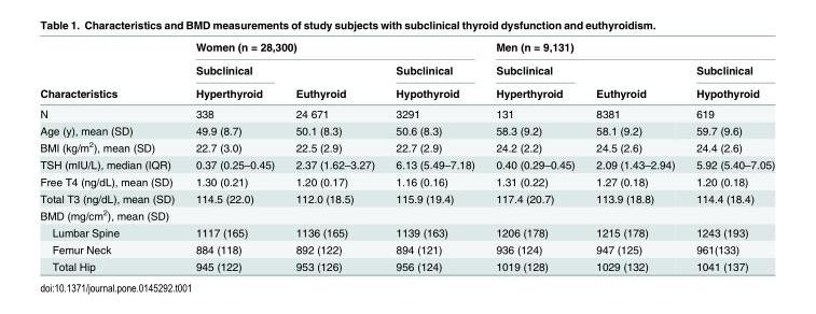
<table><thead><tr><td rowspan="3">Characteristics</td><td colspan="3">Women (n = 28,300)</td><td colspan="3">Men (n = 9,131)</td></tr><tr><td rowspan="2">Subclinical Hyperthyroid</td><td rowspan="2">Euthyroid</td><td rowspan="2">Subclinical Hypothyroid</td><td rowspan="2">Subclinical Hyperthyroid</td><td rowspan="2">Euthyroid</td><td rowspan="2">Subclinical Hypothyroid</td></tr><tr></tr></thead><tbody><tr><td>N</td><td>338</td><td>24 671</td><td>3291</td><td>131</td><td>8381</td><td>619</td></tr><tr><td>Age (y), mean (SD)</td><td>49.9 (8.7)</td><td>50.1 (8.3)</td><td>50.6 (8.3)</td><td>58.3 (9.2)</td><td>58.1 (9.2)</td><td>59.7 (9.6)</td></tr><tr><td>BMI (kg/m<sup>2</sup>), mean (SD)</td><td>22.7 (3.0)</td><td>22.5 (2.9)</td><td>22.7 (2.9)</td><td>24.2 (2.2)</td><td>24.5 (2.6)</td><td>24.4 (2.6)</td></tr><tr><td>TSH (mIU/L), median (IQR)</td><td>0.37 (0.25–0.45)</td><td>2.37 (1.62–3.27)</td><td>6.13 (5.49–7.18)</td><td>0.40 (0.29–0.45)</td><td>2.09 (1.43–2.94)</td><td>5.92 (5.40–7.05)</td></tr><tr><td>Free T4 (ng/dL), mean (SD)</td><td>1.30 (0.21)</td><td>1.20 (0.17)</td><td>1.16 (0.16)</td><td>1.31 (0.22)</td><td>1.27 (0.18)</td><td>1.20 (0.18)</td></tr><tr><td>Total T3 (ng/dL), mean (SD)</td><td>114.5 (22.0)</td><td>112.0 (18.5)</td><td>115.9 (19.4)</td><td>117.4 (20.7)</td><td>113.9 (18.8)</td><td>114.4 (18.4)</td></tr><tr><td colspan="7">BMD (mg/cm<sup>2</sup>), mean (SD)</td></tr><tr><td>Lumbar Spine</td><td>1117 (165)</td><td>1136 (165)</td><td>1139 (163)</td><td>1206 (178)</td><td>1215 (178)</td><td>1243 (193)</td></tr><tr><td>Femur Neck</td><td>884 (118)</td><td>892 (122)</td><td>894 (121)</td><td>936 (124)</td><td>947 (125)</td><td>961(133)</td></tr><tr><td>Total Hip</td><td>945 (122)</td><td>953 (126)</td><td>956 (124)</td><td>1019 (128)</td><td>1029 (132)</td><td>1041 (137)</td></tr></tbody></table>